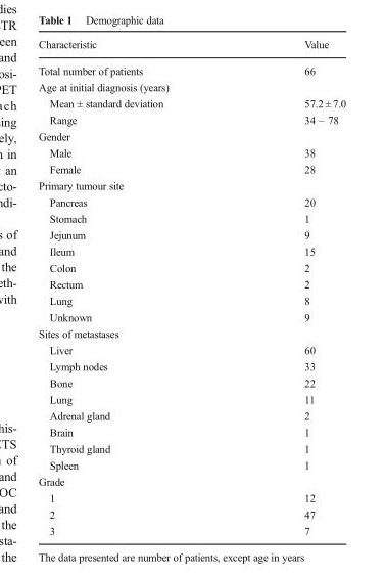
<table><thead><tr><td>Characteristic</td><td>Value</td></tr></thead><tbody><tr><td>Total number of patients</td><td>66</td></tr><tr><td colspan="2">Age at initial diagnosis (years)</td></tr><tr><td>Mean ± standard deviation</td><td>57.2 ± 7.0</td></tr><tr><td>Range</td><td>34 – 78</td></tr><tr><td colspan="2">Gender</td></tr><tr><td>Male</td><td>38</td></tr><tr><td>Female</td><td>28</td></tr><tr><td colspan="2">Primary tumour site</td></tr><tr><td>Pancreas</td><td>20</td></tr><tr><td>Stomach</td><td>1</td></tr><tr><td>Jejunum</td><td>9</td></tr><tr><td>Ileum</td><td>15</td></tr><tr><td>Colon</td><td>2</td></tr><tr><td>Rectum</td><td>2</td></tr><tr><td>Lung</td><td>8</td></tr><tr><td>Unknown</td><td>9</td></tr><tr><td colspan="2">Sites of metastases</td></tr><tr><td>Liver</td><td>60</td></tr><tr><td>Lymph nodes</td><td>33</td></tr><tr><td>Bone</td><td>22</td></tr><tr><td>Lung</td><td>11</td></tr><tr><td>Adrenal gland</td><td>2</td></tr><tr><td>Brain</td><td>1</td></tr><tr><td>Thyroid gland</td><td>1</td></tr><tr><td>Spleen</td><td>1</td></tr><tr><td colspan="2">Grade</td></tr><tr><td>1</td><td>12</td></tr><tr><td>2</td><td>47</td></tr><tr><td>3</td><td>7</td></tr></tbody></table>